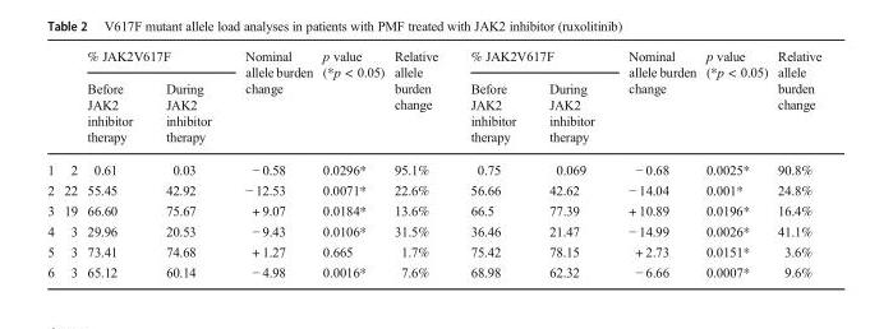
<table><thead><tr><td rowspan="2"></td><td rowspan="2"></td><td colspan="2">% JAK2V617F</td><td rowspan="2">Nominal allele burden change</td><td rowspan="2">p value (*p &lt; 0.05)</td><td rowspan="2">Relative allele burden change</td><td colspan="2">% JAK2V617F</td><td rowspan="2">Nominal allele burden change</td><td rowspan="2">p value (*p &lt; 0.05)</td><td rowspan="2">Relative allele burden change</td></tr><tr><td>Before JAK2 inhibitor therapy</td><td>During JAK2 inhibitor therapy</td><td>Before JAK2 inhibitor therapy</td><td>During JAK2 inhibitor therapy</td></tr></thead><tbody><tr><td>1</td><td>2</td><td>0.61</td><td>0.03</td><td>− 0.58</td><td>0.0296*</td><td>95.1%</td><td>0.75</td><td>0.069</td><td>− 0.68</td><td>0.0025*</td><td>90.8%</td></tr><tr><td>2</td><td>22</td><td>55.45</td><td>42.92</td><td>− 12.53</td><td>0.0071*</td><td>22.6%</td><td>56.66</td><td>42.62</td><td>− 14.04</td><td>0.001*</td><td>24.8%</td></tr><tr><td>3</td><td>19</td><td>66.60</td><td>75.67</td><td>+ 9.07</td><td>0.0184*</td><td>13.6%</td><td>66.5</td><td>77.39</td><td>+ 10.89</td><td>0.0196*</td><td>16.4%</td></tr><tr><td>4</td><td>3</td><td>29.96</td><td>20.53</td><td>− 9.43</td><td>0.0106*</td><td>31.5%</td><td>36.46</td><td>21.47</td><td>− 14.99</td><td>0.0026*</td><td>41.1%</td></tr><tr><td>5</td><td>3</td><td>73.41</td><td>74.68</td><td>+ 1.27</td><td>0.665</td><td>1.7%</td><td>75.42</td><td>78.15</td><td>+ 2.73</td><td>0.0151*</td><td>3.6%</td></tr><tr><td>6</td><td>3</td><td>65.12</td><td>60.14</td><td>− 4.98</td><td>0.0016*</td><td>7.6%</td><td>68.98</td><td>62.32</td><td>− 6.66</td><td>0.0007*</td><td>9.6%</td></tr></tbody></table>